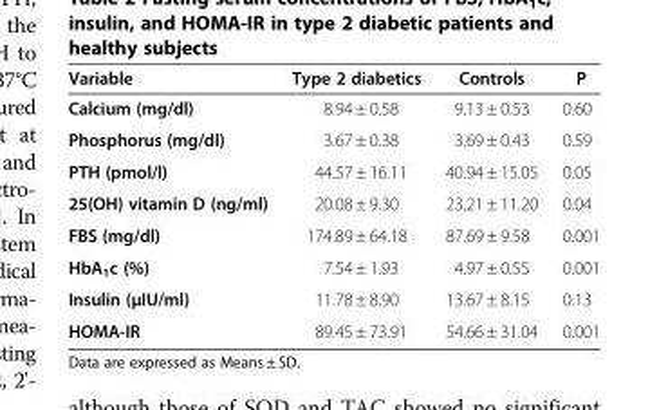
<table><thead><tr><td>Variable</td><td>Type 2 diabetics</td><td>Controls</td><td>P</td></tr></thead><tbody><tr><td>Calcium (mg/dl)</td><td>8.94 ± 0.58</td><td>9.13 ± 0.53</td><td>0.60</td></tr><tr><td>Phosphorus (mg/dl)</td><td>3.67 ± 0.38</td><td>3.69 ± 0.43</td><td>0.59</td></tr><tr><td>PTH (pmol/l)</td><td>44.57 ± 16.11</td><td>40.94 ± 15.05</td><td>0.05</td></tr><tr><td>25(OH) vitamin D (ng/ml)</td><td>20.08 ± 9.30</td><td>23.21 ± 11.20</td><td>0.04</td></tr><tr><td>FBS (mg/dl)</td><td>174.89 ± 64.18</td><td>87.69 ± 9.58</td><td>0.001</td></tr><tr><td>HbA<sub>1</sub>c (%)</td><td>7.54 ± 1.93</td><td>4.97 ± 0.55</td><td>0.001</td></tr><tr><td>Insulin (μIU/ml)</td><td>11.78 ± 8.90</td><td>13.67 ± 8.15</td><td>0.13</td></tr><tr><td>HOMA-IR</td><td>89.45 ± 73.91</td><td>54.66 ± 31.04</td><td>0.001</td></tr></tbody></table>